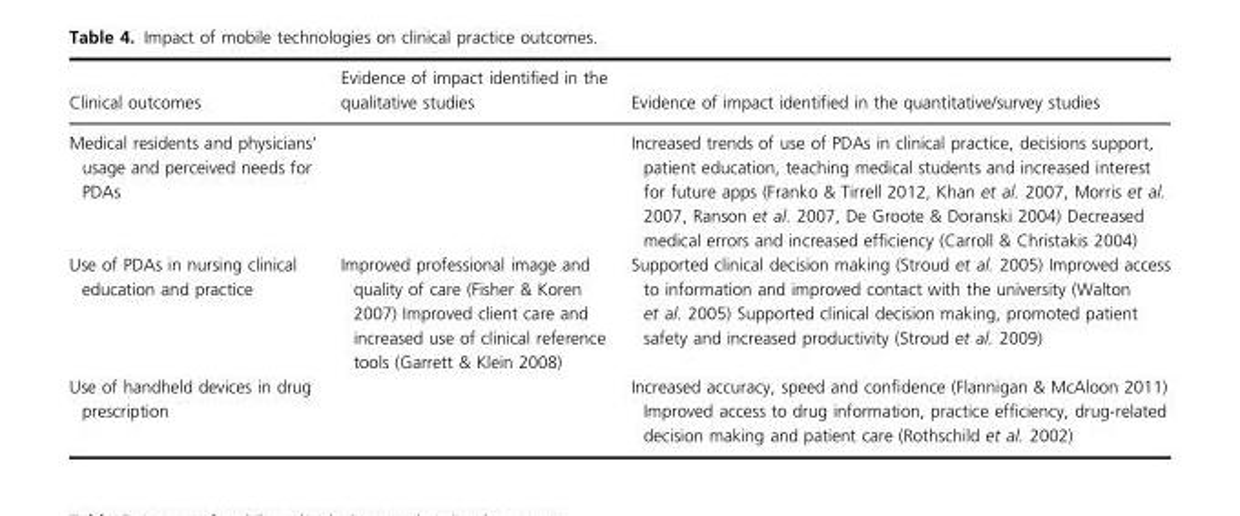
<table><thead><tr><td>Clinical outcomes</td><td>Evidence of impact identified in the qualitative studies</td><td>Evidence of impact identified in the quantitative/survey studies</td></tr></thead><tbody><tr><td>Medical residents and physicians’ usage and perceived needs for PDAs</td><td></td><td>Increased trends of use of PDAs in clinical practice, decisions support, patient education, teaching medical students and increased interest for future apps (Franko &amp; Tirrell 2012, Khan et al. 2007, Morris et al. 2007, Ranson et al. 2007, De Groote &amp; Doranski 2004) Decreased medical errors and increased efficiency (Carroll &amp; Christakis 2004)</td></tr><tr><td>Use of PDAs in nursing clinical education and practice</td><td>Improved professional image and quality of care (Fisher &amp; Koren 2007) Improved client care and increased use of clinical reference tools (Garrett &amp; Klein 2008)</td><td>Supported clinical decision making (Stroud et al. 2005) Improved access to information and improved contact with the university (Walton et al. 2005) Supported clinical decision making, promoted patient safety and increased productivity (Stroud et al. 2009)</td></tr><tr><td>Use of handheld devices in drug prescription</td><td></td><td>Increased accuracy, speed and confidence (Flannigan &amp; McAloon 2011) Improved access to drug information, practice efficiency, drug-related decision making and patient care (Rothschild et al. 2002)</td></tr></tbody></table>